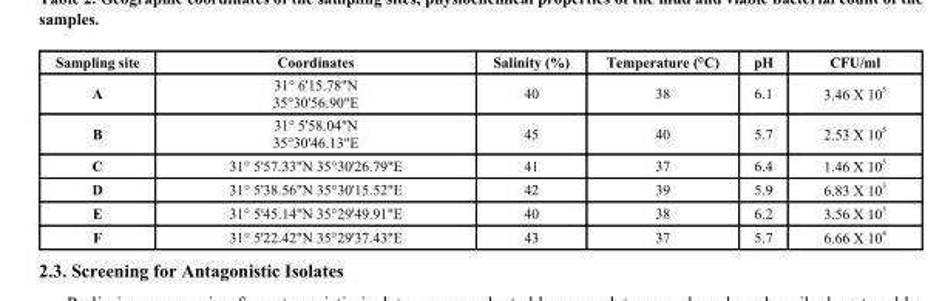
<table><thead><tr><td>Sampling site</td><td>Coordinates</td><td>Salinity (%)</td><td>Temperature (°C)</td><td>pH</td><td>CFU/ml</td></tr></thead><tbody><tr><td>A</td><td>31° 6&#x27;15.78&quot;N 35°30&#x27;56.90&quot;E</td><td>40</td><td>38</td><td>6.1</td><td>3.46 X 10 <sup>5</sup></td></tr><tr><td>B</td><td>31° 5&#x27;58.04&quot;N 35°30&#x27;46.13&quot;E</td><td>45</td><td>40</td><td>5.7</td><td>2.53 X 10 <sup>5</sup></td></tr><tr><td>C</td><td>31° 5&#x27;57.33&quot;N 35°30&#x27;26.79&quot;E</td><td>41</td><td>37</td><td>6.4</td><td>1.46 X 10 <sup>5</sup></td></tr><tr><td>D</td><td>31° 5&#x27;38.56&quot;N 35°30&#x27;15.52&quot;E</td><td>42</td><td>39</td><td>5.9</td><td>6.83 X 10 <sup>3</sup></td></tr><tr><td>E</td><td>31° 5&#x27;45.14&quot;N 35°29&#x27;49.91&quot;E</td><td>40</td><td>38</td><td>6.2</td><td>3.56 X 10 <sup>5</sup></td></tr><tr><td>F</td><td>31° 5&#x27;22.42&quot;N 35°29&#x27;37.43&quot;E</td><td>43</td><td>37</td><td>5.7</td><td>6.66 X 10 <sup>4</sup></td></tr></tbody></table>